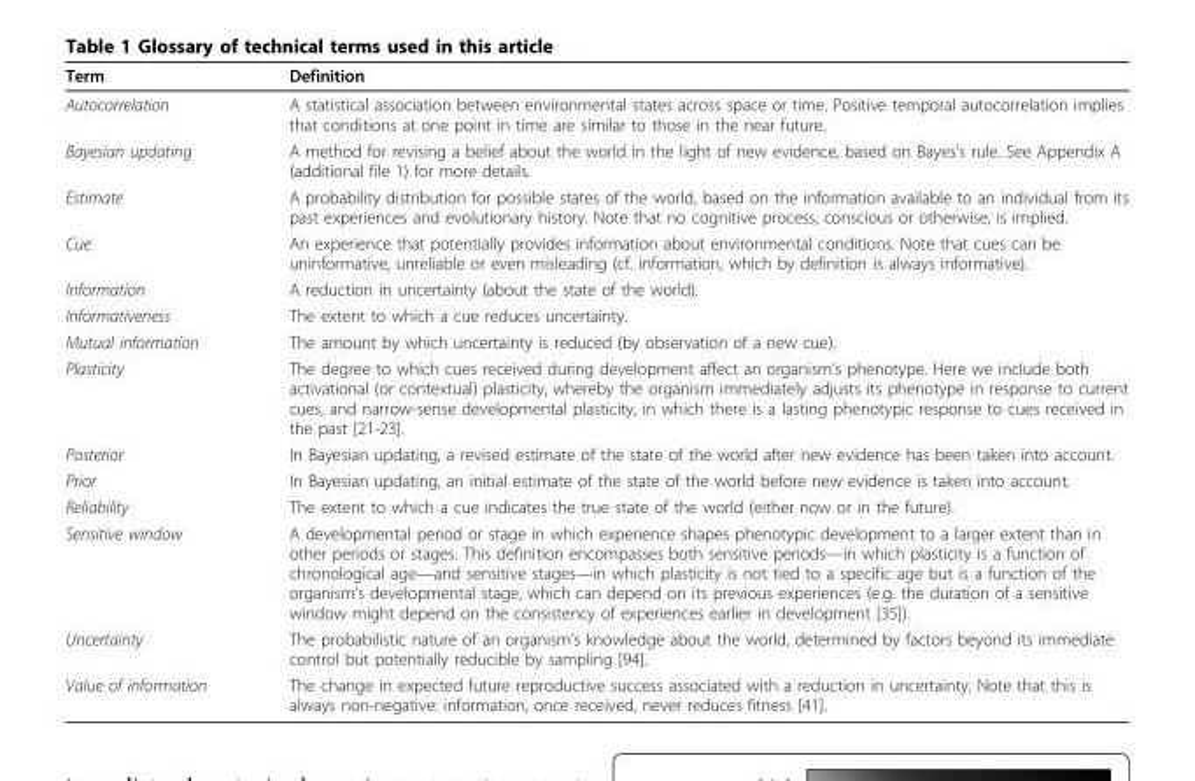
<table><tbody><tr><td>Term</td><td>Definition</td></tr><tr><td>Autocorrelation</td><td>A statistical association between environmental states across space or time. Positive temporal autocorrelation implies that conditions at one point in time are similar to those in the near future.</td></tr><tr><td>Bayesian updating</td><td>A method for revising a belief about the world in the light of new evidence, based on Bayes’s rule. See Appendix A (additional file 1) for more details.</td></tr><tr><td>Estimate</td><td>A probability distribution for possible states of the world, based on the information available to an individual from its past experiences and evolutionary history. Note that no cognitive process, conscious or otherwise, is implied.</td></tr><tr><td>Cue</td><td>An experience that potentially provides information about environmental conditions. Note that cues can be uninformative, unreliable or even misleading (cf. information, which by definition is always informative).</td></tr><tr><td>Information</td><td>A reduction in uncertainty (about the state of the world).</td></tr><tr><td>Informativeness</td><td>The extent to which a cue reduces uncertainty.</td></tr><tr><td>Mutual information</td><td>The amount by which uncertainty is reduced (by observation of a new cue).</td></tr><tr><td>Plasticity</td><td>The degree to which cues received during development affect an organism’s phenotype. Here we include both activational (or contextual) plasticity, whereby the organism immediately adjusts its phenotype in response to current cues, and narrow-sense developmental plasticity, in which there is a lasting phenotypic response to cues received in the past [21-23].</td></tr><tr><td>Posterior</td><td>In Bayesian updating, a revised estimate of the state of the world after new evidence has been taken into account.</td></tr><tr><td>Prior</td><td>In Bayesian updating, an initial estimate of the state of the world before new evidence is taken into account.</td></tr><tr><td>Reliability</td><td>The extent to which a cue indicates the true state of the world (either now or in the future).</td></tr><tr><td>Sensitive window</td><td>A developmental period or stage in which experience shapes phenotypic development to a larger extent than in other periods or stages. This definition encompasses both sensitive periods—in which plasticity is a function of chronological age—and sensitive stages—in which plasticity is not tied to a specific age but is a function of the organism’s developmental stage, which can depend on its previous experiences (e.g. the duration of a sensitive window might depend on the consistency of experiences earlier in development [35]).</td></tr><tr><td>Uncertainty</td><td>The probabilistic nature of an organism’s knowledge about the world, determined by factors beyond its immediate control but potentially reducible by sampling [94].</td></tr><tr><td>Value of information</td><td>The change in expected future reproductive success associated with a reduction in uncertainty. Note that this is always non-negative: information, once received, never reduces fitness [41].</td></tr></tbody></table>